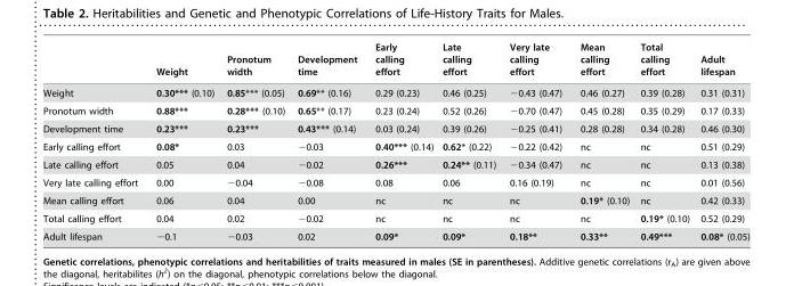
<table><thead><tr><td></td><td>Weight</td><td>Pronotum width</td><td>Development time</td><td>Early calling effort</td><td>Late calling effort</td><td>Very late calling effort</td><td>Mean calling effort</td><td>Total calling effort</td><td>Adult lifespan</td></tr></thead><tbody><tr><td>Weight</td><td>0.30*** (0.10)</td><td>0.85*** (0.05)</td><td>0.69** (0.16)</td><td>0.29 (0.23)</td><td>0.46 (0.25)</td><td>−0.43 (0.47)</td><td>0.46 (0.27)</td><td>0.39 (0.28)</td><td>0.31 (0.31)</td></tr><tr><td>Pronotum width</td><td>0.88***</td><td>0.28*** (0.10)</td><td>0.65** (0.17)</td><td>0.23 (0.24)</td><td>0.52 (0.26)</td><td>−0.70 (0.47)</td><td>0.45 (0.28)</td><td>0.35 (0.29)</td><td>0.17 (0.33)</td></tr><tr><td>Development time</td><td>0.23***</td><td>0.23***</td><td>0.43*** (0.14)</td><td>0.03 (0.24)</td><td>0.39 (0.26)</td><td>−0.25 (0.41)</td><td>0.28 (0.28)</td><td>0.34 (0.28)</td><td>0.46 (0.30)</td></tr><tr><td>Early calling effort</td><td>0.08*</td><td>0.03</td><td>−0.03</td><td>0.40*** (0.14)</td><td>0.62* (0.22)</td><td>−0.22 (0.42)</td><td>nc</td><td>nc</td><td>0.51 (0.29)</td></tr><tr><td>Late calling effort</td><td>0.05</td><td>0.04</td><td>−0.02</td><td>0.26***</td><td>0.24** (0.11)</td><td>−0.34 (0.47)</td><td>nc</td><td>nc</td><td>0.13 (0.38)</td></tr><tr><td>Very late calling effort</td><td>0.00</td><td>−0.04</td><td>−0.08</td><td>0.08</td><td>0.06</td><td>0.16 (0.19)</td><td>nc</td><td>nc</td><td>0.01 (0.56)</td></tr><tr><td>Mean calling effort</td><td>0.06</td><td>0.04</td><td>0.00</td><td>nc</td><td>nc</td><td>nc</td><td>0.19* (0.10)</td><td>nc</td><td>0.42 (0.33)</td></tr><tr><td>Total calling effort</td><td>0.04</td><td>0.02</td><td>−0.02</td><td>nc</td><td>nc</td><td>nc</td><td>nc</td><td>0.19* (0.10)</td><td>0.52 (0.29)</td></tr><tr><td>Adult lifespan</td><td>−0.1</td><td>−0.03</td><td>0.02</td><td>0.09*</td><td>0.09*</td><td>0.18**</td><td>0.33**</td><td>0.49***</td><td>0.08* (0.05)</td></tr></tbody></table>